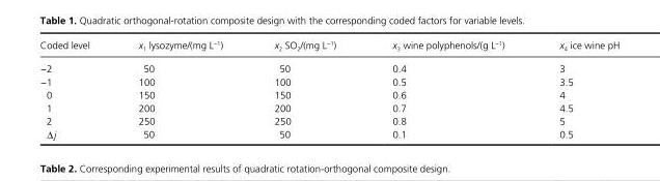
<table><thead><tr><td>Coded level</td><td>x<sub>1</sub> lysozyme/(mg L<sup>−1</sup>)</td><td>x<sub>2</sub> SO<sub>2</sub>/(mg L<sup>−1</sup>)</td><td>x<sub>3</sub> wine polyphenols/(g L<sup>−1</sup>)</td><td>x<sub>4</sub> ice wine pH</td></tr></thead><tbody><tr><td>−2</td><td>50</td><td>50</td><td>0.4</td><td>3</td></tr><tr><td>−1</td><td>100</td><td>100</td><td>0.5</td><td>3.5</td></tr><tr><td>0</td><td>150</td><td>150</td><td>0.6</td><td>4</td></tr><tr><td>1</td><td>200</td><td>200</td><td>0.7</td><td>4.5</td></tr><tr><td>2</td><td>250</td><td>250</td><td>0.8</td><td>5</td></tr><tr><td>Δ j</td><td>50</td><td>50</td><td>0.1</td><td>0.5</td></tr></tbody></table>